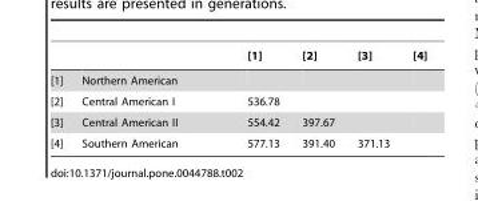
<table><thead><tr><td></td><td></td><td>[1]</td><td>[2]</td><td>[3]</td><td>[4]</td></tr></thead><tbody><tr><td>[1]</td><td>Northern American</td><td></td><td></td><td></td><td></td></tr><tr><td>[2]</td><td>Central American I</td><td>536.78</td><td></td><td></td><td></td></tr><tr><td>[3]</td><td>Central American II</td><td>554.42</td><td>397.67</td><td></td><td></td></tr><tr><td>[4]</td><td>Southern American</td><td>577.13</td><td>391.40</td><td>371.13</td><td></td></tr></tbody></table>